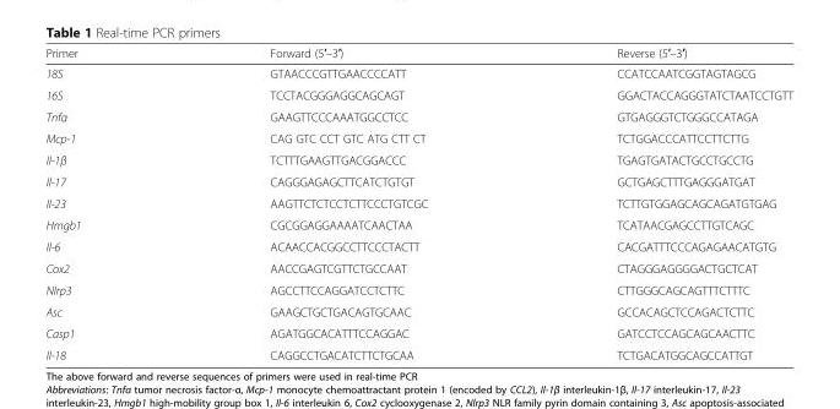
<table><thead><tr><td>Primer</td><td>Forward (5′–3′)</td><td>Reverse (5′–3′)</td></tr></thead><tbody><tr><td>18S</td><td>GTAACCCGTTGAACCCCATT</td><td>CCATCCAATCGGTAGTAGCG</td></tr><tr><td>16S</td><td>TCCTACGGGAGGCAGCAGT</td><td>GGACTACCAGGGTATCTAATCCTGTT</td></tr><tr><td>Tnfα</td><td>GAAGTTCCCAAATGGCCTCC</td><td>GTGAGGGTCTGGGCCATAGA</td></tr><tr><td>Mcp-1</td><td>CAG GTC CCT GTC ATG CTT CT</td><td>TCTGGACCCATTCCTTCTTG</td></tr><tr><td>Il-1β</td><td>TCTTTGAAGTTGACGGACCC</td><td>TGAGTGATACTGCCTGCCTG</td></tr><tr><td>Il-17</td><td>CAGGGAGAGCTTCATCTGTGT</td><td>GCTGAGCTTTGAGGGATGAT</td></tr><tr><td>Il-23</td><td>AAGTTCTCTCCTCTTCCCTGTCGC</td><td>TCTTGTGGAGCAGCAGATGTGAG</td></tr><tr><td>Hmgb1</td><td>CGCGGAGGAAAATCAACTAA</td><td>TCATAACGAGCCTTGTCAGC</td></tr><tr><td>Il-6</td><td>ACAACCACGGCCTTCCCTACTT</td><td>CACGATTTCCCAGAGAACATGTG</td></tr><tr><td>Cox2</td><td>AACCGAGTCGTTCTGCCAAT</td><td>CTAGGGAGGGGACTGCTCAT</td></tr><tr><td>Nlrp3</td><td>AGCCTTCCAGGATCCTCTTC</td><td>CTTGGGCAGCAGTTTCTTTC</td></tr><tr><td>Asc</td><td>GAAGCTGCTGACAGTGCAAC</td><td>GCCACAGCTCCAGACTCTTC</td></tr><tr><td>Casp1</td><td>AGATGGCACATTTCCAGGAC</td><td>GATCCTCCAGCAGCAACTTC</td></tr><tr><td>Il-18</td><td>CAGGCCTGACATCTTCTGCAA</td><td>TCTGACATGGCAGCCATTGT</td></tr></tbody></table>